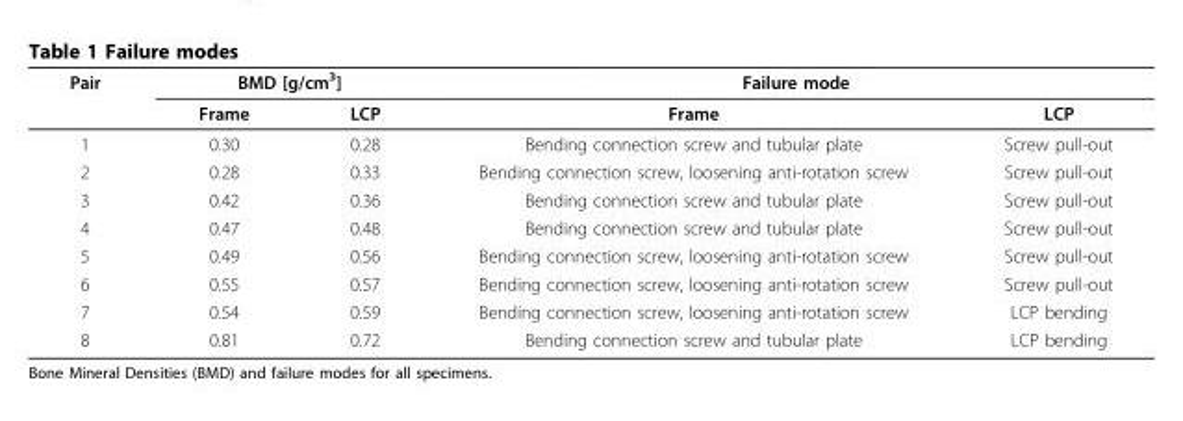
<table><thead><tr><td rowspan="2">Pair</td><td colspan="2">BMD [g/cm<sup>3</sup>]</td><td colspan="2">Failure mode</td></tr><tr><td>Frame</td><td>LCP</td><td>Frame</td><td>LCP</td></tr></thead><tbody><tr><td>1</td><td>0.30</td><td>0.28</td><td>Bending connection screw and tubular plate</td><td>Screw pull-out</td></tr><tr><td>2</td><td>0.28</td><td>0.33</td><td>Bending connection screw, loosening anti-rotation screw</td><td>Screw pull-out</td></tr><tr><td>3</td><td>0.42</td><td>0.36</td><td>Bending connection screw and tubular plate</td><td>Screw pull-out</td></tr><tr><td>4</td><td>0.47</td><td>0.48</td><td>Bending connection screw and tubular plate</td><td>Screw pull-out</td></tr><tr><td>5</td><td>0.49</td><td>0.56</td><td>Bending connection screw, loosening anti-rotation screw</td><td>Screw pull-out</td></tr><tr><td>6</td><td>0.55</td><td>0.57</td><td>Bending connection screw, loosening anti-rotation screw</td><td>Screw pull-out</td></tr><tr><td>7</td><td>0.54</td><td>0.59</td><td>Bending connection screw, loosening anti-rotation screw</td><td>LCP bending</td></tr><tr><td>8</td><td>0.81</td><td>0.72</td><td>Bending connection screw and tubular plate</td><td>LCP bending</td></tr></tbody></table>